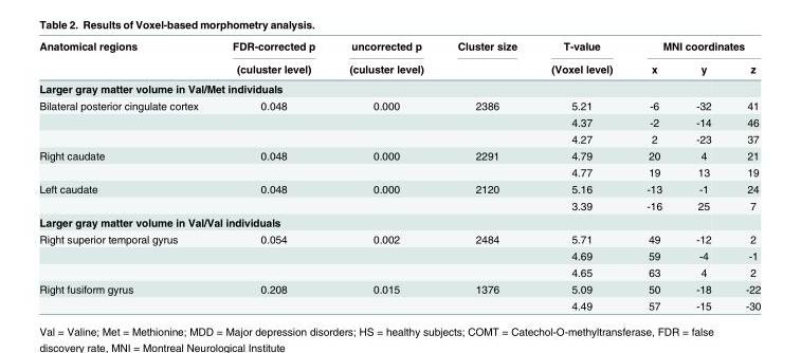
<table><thead><tr><td rowspan="2">Anatomical regions</td><td rowspan="2">FDR-corrected p (culuster level)</td><td rowspan="2">uncorrected p (culuster level)</td><td rowspan="2">Cluster size</td><td rowspan="2">T-value (Voxel level)</td><td colspan="3">MNI coordinates</td></tr><tr><td>x</td><td>y</td><td>z</td></tr></thead><tbody><tr><td colspan="8">Larger gray matter volume in Val/Met individuals</td></tr><tr><td rowspan="3">Bilateral posterior cingulate cortex</td><td>0.048</td><td>0.000</td><td>2386</td><td>5.21</td><td>-6</td><td>-32</td><td>41</td></tr><tr><td></td><td></td><td></td><td>4.37</td><td>-2</td><td>-14</td><td>46</td></tr><tr><td></td><td></td><td></td><td>4.27</td><td>2</td><td>-23</td><td>37</td></tr><tr><td rowspan="2">Right caudate</td><td>0.048</td><td>0.000</td><td>2291</td><td>4.79</td><td>20</td><td>4</td><td>21</td></tr><tr><td></td><td></td><td></td><td>4.77</td><td>19</td><td>13</td><td>19</td></tr><tr><td rowspan="2">Left caudate</td><td>0.048</td><td>0.000</td><td>2120</td><td>5.16</td><td>-13</td><td>-1</td><td>24</td></tr><tr><td></td><td></td><td></td><td>3.39</td><td>-16</td><td>25</td><td>7</td></tr><tr><td colspan="8">Larger gray matter volume in Val/Val individuals</td></tr><tr><td rowspan="3">Right superior temporal gyrus</td><td>0.054</td><td>0.002</td><td>2484</td><td>5.71</td><td>49</td><td>-12</td><td>2</td></tr><tr><td></td><td></td><td></td><td>4.69</td><td>59</td><td>-4</td><td>-1</td></tr><tr><td></td><td></td><td></td><td>4.65</td><td>63</td><td>4</td><td>2</td></tr><tr><td rowspan="2">Right fusiform gyrus</td><td>0.208</td><td>0.015</td><td>1376</td><td>5.09</td><td>50</td><td>-18</td><td>-22</td></tr><tr><td></td><td></td><td></td><td>4.49</td><td>57</td><td>-15</td><td>-30</td></tr></tbody></table>